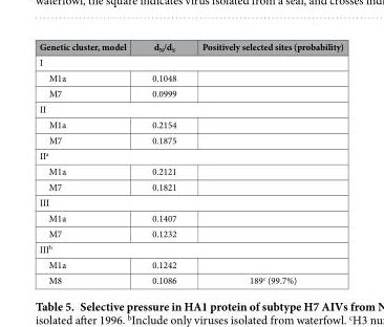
<table><thead><tr><td>Genetic cluster, model</td><td>d<sub>N</sub>/d<sub>S</sub></td><td>Positively selected sites (probability)</td></tr></thead><tbody><tr><td colspan="3">I</td></tr><tr><td>M1a</td><td>0.1048</td><td></td></tr><tr><td>M7</td><td>0.0999</td><td></td></tr><tr><td colspan="3">II</td></tr><tr><td>M1a</td><td>0.2154</td><td></td></tr><tr><td>M7</td><td>0.1875</td><td></td></tr><tr><td colspan="3">II<sup>a</sup></td></tr><tr><td>M1a</td><td>0.2121</td><td></td></tr><tr><td>M7</td><td>0.1821</td><td></td></tr><tr><td colspan="3">III</td></tr><tr><td>M1a</td><td>0.1407</td><td></td></tr><tr><td>M7</td><td>0.1232</td><td></td></tr><tr><td colspan="3">III<sup>b</sup></td></tr><tr><td>M1a</td><td>0.1242</td><td></td></tr><tr><td>M8</td><td>0.1086</td><td>189<sup>c</sup> (99.7%)</td></tr></tbody></table>